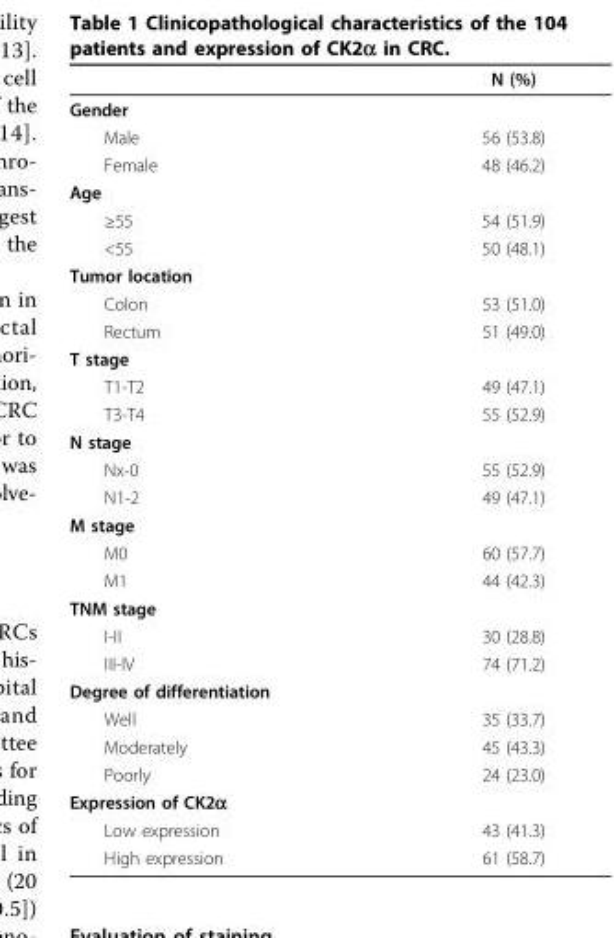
<table><thead><tr><td></td><td>N (%)</td></tr></thead><tbody><tr><td colspan="2">Gender</td></tr><tr><td>Male</td><td>56 (53.8)</td></tr><tr><td>Female</td><td>48 (46.2)</td></tr><tr><td colspan="2">Age</td></tr><tr><td>≥55</td><td>54 (51.9)</td></tr><tr><td>&lt;55</td><td>50 (48.1)</td></tr><tr><td colspan="2">Tumor location</td></tr><tr><td>Colon</td><td>53 (51.0)</td></tr><tr><td>Rectum</td><td>51 (49.0)</td></tr><tr><td colspan="2">T stage</td></tr><tr><td>T1-T2</td><td>49 (47.1)</td></tr><tr><td>T3-T4</td><td>55 (52.9)</td></tr><tr><td colspan="2">N stage</td></tr><tr><td>Nx-0</td><td>55 (52.9)</td></tr><tr><td>N1-2</td><td>49 (47.1)</td></tr><tr><td colspan="2">M stage</td></tr><tr><td>M0</td><td>60 (57.7)</td></tr><tr><td>M1</td><td>44 (42.3)</td></tr><tr><td colspan="2">TNM stage</td></tr><tr><td>I-II</td><td>30 (28.8)</td></tr><tr><td>III-IV</td><td>74 (71.2)</td></tr><tr><td colspan="2">Degree of differentiation</td></tr><tr><td>Well</td><td>35 (33.7)</td></tr><tr><td>Moderately</td><td>45 (43.3)</td></tr><tr><td>Poorly</td><td>24 (23.0)</td></tr><tr><td colspan="2">Expression of CK2α</td></tr><tr><td>Low expression</td><td>43 (41.3)</td></tr><tr><td>High expression</td><td>61 (58.7)</td></tr></tbody></table>